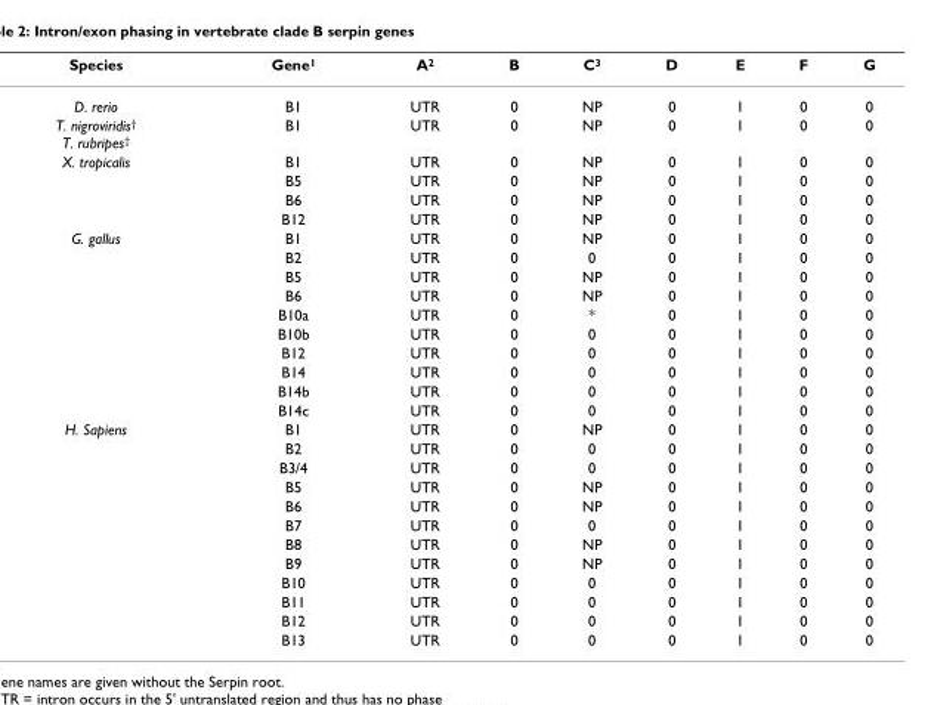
<table><thead><tr><td>Species</td><td>Gene<sup>1</sup></td><td>A<sup>2</sup></td><td>B</td><td>C<sup>3</sup></td><td>D</td><td>E</td><td>F</td><td>G</td></tr></thead><tbody><tr><td>D. rerio</td><td>B1</td><td>UTR</td><td>0</td><td>NP</td><td>0</td><td>1</td><td>0</td><td>0</td></tr><tr><td>T. nigroviridis<sup>†</sup> T. rubripes<sup>†</sup></td><td>B1</td><td>UTR</td><td>0</td><td>NP</td><td>0</td><td>1</td><td>0</td><td>0</td></tr><tr><td rowspan="4">X. tropicalis</td><td>B1</td><td>UTR</td><td>0</td><td>NP</td><td>0</td><td>1</td><td>0</td><td>0</td></tr><tr><td>B5</td><td>UTR</td><td>0</td><td>NP</td><td>0</td><td>1</td><td>0</td><td>0</td></tr><tr><td>B6</td><td>UTR</td><td>0</td><td>NP</td><td>0</td><td>1</td><td>0</td><td>0</td></tr><tr><td>B12</td><td>UTR</td><td>0</td><td>NP</td><td>0</td><td>1</td><td>0</td><td>0</td></tr><tr><td rowspan="10">G. gallus</td><td>B1</td><td>UTR</td><td>0</td><td>NP</td><td>0</td><td>1</td><td>0</td><td>0</td></tr><tr><td>B2</td><td>UTR</td><td>0</td><td>0</td><td>0</td><td>1</td><td>0</td><td>0</td></tr><tr><td>B5</td><td>UTR</td><td>0</td><td>NP</td><td>0</td><td>1</td><td>0</td><td>0</td></tr><tr><td>B6</td><td>UTR</td><td>0</td><td>NP</td><td>0</td><td>1</td><td>0</td><td>0</td></tr><tr><td>B10a</td><td>UTR</td><td>0</td><td>*</td><td>0</td><td>1</td><td>0</td><td>0</td></tr><tr><td>B10b</td><td>UTR</td><td>0</td><td>0</td><td>0</td><td>1</td><td>0</td><td>0</td></tr><tr><td>B12</td><td>UTR</td><td>0</td><td>0</td><td>0</td><td>1</td><td>0</td><td>0</td></tr><tr><td>B14</td><td>UTR</td><td>0</td><td>0</td><td>0</td><td>1</td><td>0</td><td>0</td></tr><tr><td>B14b</td><td>UTR</td><td>0</td><td>0</td><td>0</td><td>1</td><td>0</td><td>0</td></tr><tr><td>B14c</td><td>UTR</td><td>0</td><td>0</td><td>0</td><td>1</td><td>0</td><td>0</td></tr><tr><td rowspan="12">H. Sapiens</td><td>B1</td><td>UTR</td><td>0</td><td>NP</td><td>0</td><td>1</td><td>0</td><td>0</td></tr><tr><td>B2</td><td>UTR</td><td>0</td><td>0</td><td>0</td><td>1</td><td>0</td><td>0</td></tr><tr><td>B3/4</td><td>UTR</td><td>0</td><td>0</td><td>0</td><td>1</td><td>0</td><td>0</td></tr><tr><td>B5</td><td>UTR</td><td>0</td><td>NP</td><td>0</td><td>1</td><td>0</td><td>0</td></tr><tr><td>B6</td><td>UTR</td><td>0</td><td>NP</td><td>0</td><td>1</td><td>0</td><td>0</td></tr><tr><td>B7</td><td>UTR</td><td>0</td><td>0</td><td>0</td><td>1</td><td>0</td><td>0</td></tr><tr><td>B8</td><td>UTR</td><td>0</td><td>NP</td><td>0</td><td>1</td><td>0</td><td>0</td></tr><tr><td>B9</td><td>UTR</td><td>0</td><td>NP</td><td>0</td><td>1</td><td>0</td><td>0</td></tr><tr><td>B10</td><td>UTR</td><td>0</td><td>0</td><td>0</td><td>1</td><td>0</td><td>0</td></tr><tr><td>B11</td><td>UTR</td><td>0</td><td>0</td><td>0</td><td>1</td><td>0</td><td>0</td></tr><tr><td>B12</td><td>UTR</td><td>0</td><td>0</td><td>0</td><td>1</td><td>0</td><td>0</td></tr><tr><td>B13</td><td>UTR</td><td>0</td><td>0</td><td>0</td><td>1</td><td>0</td><td>0</td></tr></tbody></table>